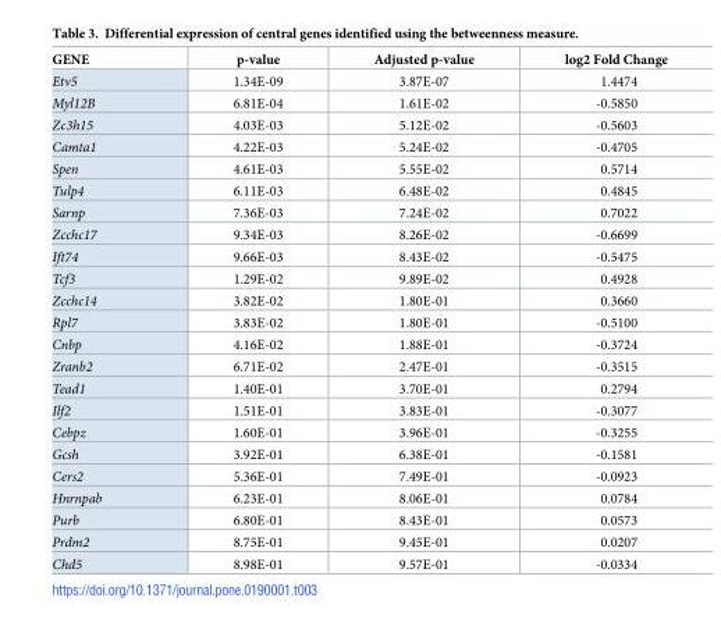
<table><thead><tr><td>GENE</td><td>p-value</td><td>Adjusted p-value</td><td>log2 Fold Change</td></tr></thead><tbody><tr><td>Etv5</td><td>1.34E-09</td><td>3.87E-07</td><td>1.4474</td></tr><tr><td>Myl12B</td><td>6.81E-04</td><td>1.61E-02</td><td>-0.5850</td></tr><tr><td>Zc3h15</td><td>4.03E-03</td><td>5.12E-02</td><td>-0.5603</td></tr><tr><td>Camta1</td><td>4.22E-03</td><td>5.24E-02</td><td>-0.4705</td></tr><tr><td>Spen</td><td>4.61E-03</td><td>5.55E-02</td><td>0.5714</td></tr><tr><td>Tulp4</td><td>6.11E-03</td><td>6.48E-02</td><td>0.4845</td></tr><tr><td>Sarnp</td><td>7.36E-03</td><td>7.24E-02</td><td>0.7022</td></tr><tr><td>Zcchc17</td><td>9.34E-03</td><td>8.26E-02</td><td>-0.6699</td></tr><tr><td>Ift74</td><td>9.66E-03</td><td>8.43E-02</td><td>-0.5475</td></tr><tr><td>Tcf3</td><td>1.29E-02</td><td>9.89E-02</td><td>0.4928</td></tr><tr><td>Zcchc14</td><td>3.82E-02</td><td>1.80E-01</td><td>0.3660</td></tr><tr><td>Rpl7</td><td>3.83E-02</td><td>1.80E-01</td><td>-0.5100</td></tr><tr><td>Cnbp</td><td>4.16E-02</td><td>1.88E-01</td><td>-0.3724</td></tr><tr><td>Zranb2</td><td>6.71E-02</td><td>2.47E-01</td><td>-0.3515</td></tr><tr><td>Tead1</td><td>1.40E-01</td><td>3.70E-01</td><td>0.2794</td></tr><tr><td>Ilf2</td><td>1.51E-01</td><td>3.83E-01</td><td>-0.3077</td></tr><tr><td>Cebpz</td><td>1.60E-01</td><td>3.96E-01</td><td>-0.3255</td></tr><tr><td>Gcsh</td><td>3.92E-01</td><td>6.38E-01</td><td>-0.1581</td></tr><tr><td>Cers2</td><td>5.36E-01</td><td>7.49E-01</td><td>-0.0923</td></tr><tr><td>Hnrnpab</td><td>6.23E-01</td><td>8.06E-01</td><td>0.0784</td></tr><tr><td>Purb</td><td>6.80E-01</td><td>8.43E-01</td><td>0.0573</td></tr><tr><td>Prdm2</td><td>8.75E-01</td><td>9.45E-01</td><td>0.0207</td></tr><tr><td>Chd5</td><td>8.98E-01</td><td>9.57E-01</td><td>-0.0334</td></tr></tbody></table>